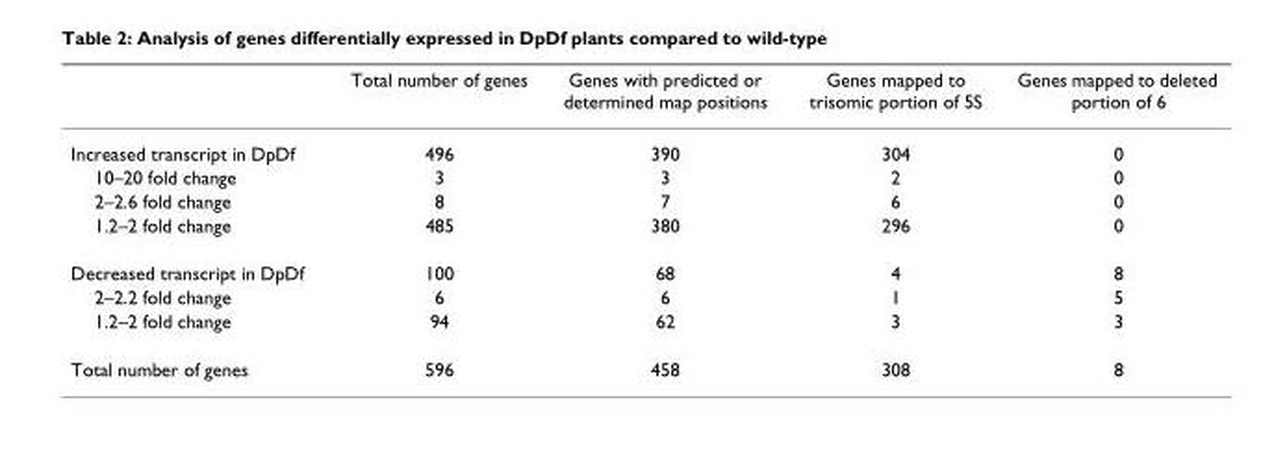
<table><thead><tr><td></td><td>Total number of genes</td><td>Genes with predicted or determined map positions</td><td>Genes mapped to trisomic portion of 5S</td><td>Genes mapped to deleted portion of 6</td></tr></thead><tbody><tr><td>Increased transcript in DpDf</td><td>496</td><td>390</td><td>304</td><td>0</td></tr><tr><td>10–20 fold change</td><td>3</td><td>3</td><td>2</td><td>0</td></tr><tr><td>2–2.6 fold change</td><td>8</td><td>7</td><td>6</td><td>0</td></tr><tr><td>1.2–2 fold change</td><td>485</td><td>380</td><td>296</td><td>0</td></tr><tr><td>Decreased transcript in DpDf</td><td>100</td><td>68</td><td>4</td><td>8</td></tr><tr><td>2–2.2 fold change</td><td>6</td><td>6</td><td>1</td><td>5</td></tr><tr><td>1.2–2 fold change</td><td>94</td><td>62</td><td>3</td><td>3</td></tr><tr><td>Total number of genes</td><td>596</td><td>458</td><td>308</td><td>8</td></tr></tbody></table>